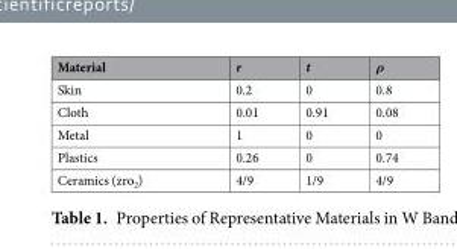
<table><thead><tr><td>Material</td><td>r</td><td>t</td><td>ρ</td></tr></thead><tbody><tr><td>Skin</td><td>0.2</td><td>0</td><td>0.8</td></tr><tr><td>Cloth</td><td>0.01</td><td>0.91</td><td>0.08</td></tr><tr><td>Metal</td><td>1</td><td>0</td><td>0</td></tr><tr><td>Plastics</td><td>0.26</td><td>0</td><td>0.74</td></tr><tr><td>Ceramics (zro<sub>2</sub>)</td><td>4/9</td><td>1/9</td><td>4/9</td></tr></tbody></table>